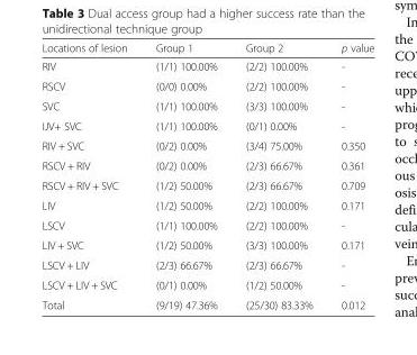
<table><thead><tr><td>Locations of lesion</td><td>Group 1</td><td>Group 2</td><td>p value</td></tr></thead><tbody><tr><td>RIV</td><td>(1/1) 100.00%</td><td>(2/2) 100.00%</td><td>-</td></tr><tr><td>RSCV</td><td>(0/0) 0.00%</td><td>(2/2) 100.00%</td><td>-</td></tr><tr><td>SVC</td><td>(1/1) 100.00%</td><td>(3/3) 100.00%</td><td>-</td></tr><tr><td>IJV+ SVC</td><td>(1/1) 100.00%</td><td>(0/1) 0.00%</td><td>-</td></tr><tr><td>RIV + SVC</td><td>(0/2) 0.00%</td><td>(3/4) 75.00%</td><td>0.350</td></tr><tr><td>RSCV + RIV</td><td>(0/2) 0.00%</td><td>(2/3) 66.67%</td><td>0.361</td></tr><tr><td>RSCV + RIV + SVC</td><td>(1/2) 50.00%</td><td>(2/3) 66.67%</td><td>0.709</td></tr><tr><td>LIV</td><td>(1/2) 50.00%</td><td>(2/2) 100.00%</td><td>0.171</td></tr><tr><td>LSCV</td><td>(1/1) 100.00%</td><td>(2/2) 100.00%</td><td>-</td></tr><tr><td>LIV + SVC</td><td>(1/2) 50.00%</td><td>(3/3) 100.00%</td><td>0.171</td></tr><tr><td>LSCV + LIV</td><td>(2/3) 66.67%</td><td>(2/3) 66.67%</td><td>-</td></tr><tr><td>LSCV + LIV + SVC</td><td>(0/1) 0.00%</td><td>(1/2) 50.00%</td><td>-</td></tr><tr><td>Total</td><td>(9/19) 47.36%</td><td>(25/30) 83.33%</td><td>0.012</td></tr></tbody></table>